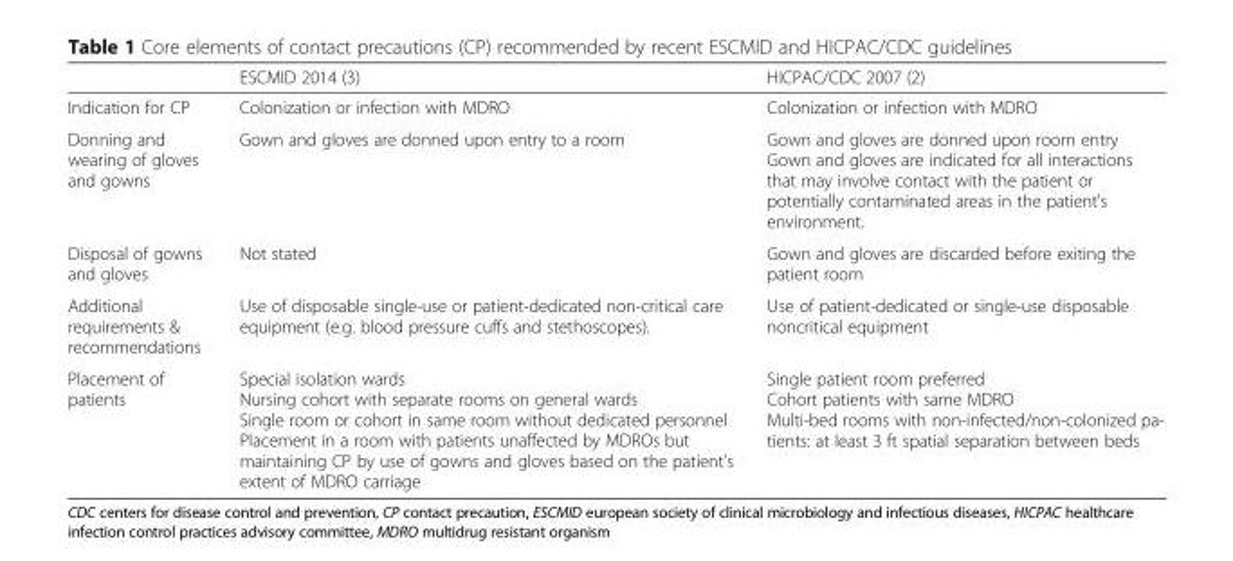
<table><thead><tr><td></td><td>ESCMID 2014 (3)</td><td>HICPAC/CDC 2007 (2)</td></tr></thead><tbody><tr><td>Indication for CP</td><td>Colonization or infection with MDRO</td><td>Colonization or infection with MDRO</td></tr><tr><td>Donning and wearing of gloves and gowns</td><td>Gown and gloves are donned upon entry to a room</td><td>Gown and gloves are donned upon room entry Gown and gloves are indicated for all interactions that may involve contact with the patient or potentially contaminated areas in the patient’s environment.</td></tr><tr><td>Disposal of gowns and gloves</td><td>Not stated</td><td>Gown and gloves are discarded before exiting the patient room</td></tr><tr><td>Additional requirements &amp; recommendations</td><td>Use of disposable single-use or patient-dedicated non-critical care equipment (e.g. blood pressure cuffs and stethoscopes).</td><td>Use of patient-dedicated or single-use disposable noncritical equipment</td></tr><tr><td>Placement of patients</td><td>Special isolation wards Nursing cohort with separate rooms on general wards Single room or cohort in same room without dedicated personnel Placement in a room with patients unaffected by MDROs but maintaining CP by use of gowns and gloves based on the patient’s extent of MDRO carriage</td><td>Single patient room preferred Cohort patients with same MDRO Multi-bed rooms with non-infected/non-colonized pa- tients: at least 3 ft spatial separation between beds</td></tr></tbody></table>